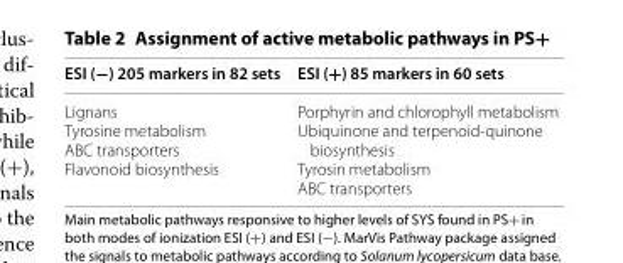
<table><thead><tr><td>ESI (−) 205 markers in 82 sets</td><td>ESI (+) 85 markers in 60 sets</td></tr></thead><tbody><tr><td>Lignans Tyrosine metabolism ABC transporters Flavonoid biosynthesis</td><td>Porphyrin and chlorophyll metabolism Ubiquinone and terpenoid‑quinone biosynthesis Tyrosin metabolism ABC transporters</td></tr></tbody></table>